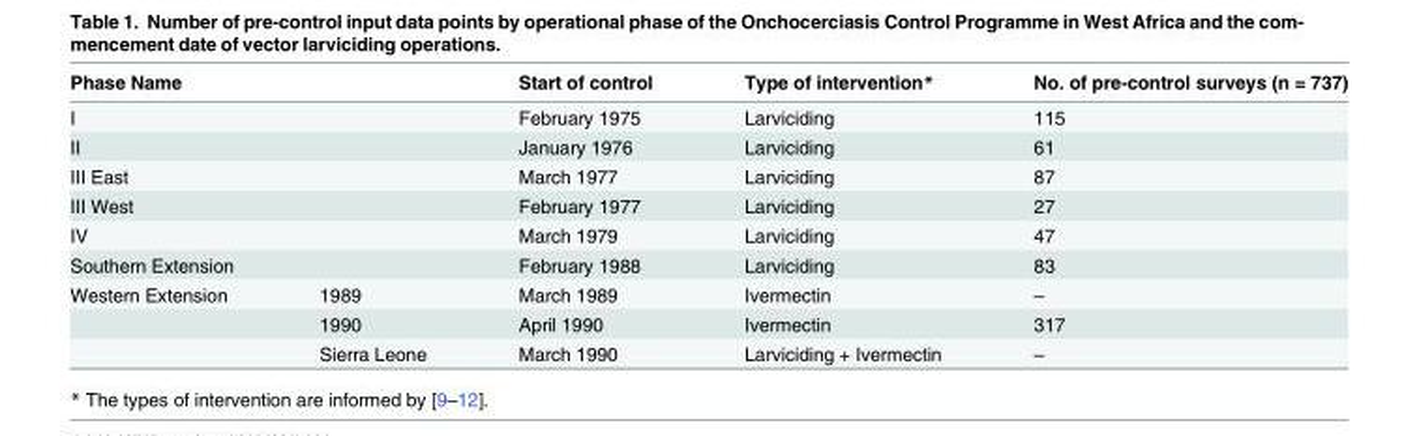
<table><thead><tr><td colspan="2">Phase Name</td><td>Start of control</td><td>Type of intervention*</td><td>No. of pre-control surveys (n = 737)</td></tr></thead><tbody><tr><td colspan="2">I</td><td>February 1975</td><td>Larviciding</td><td>115</td></tr><tr><td colspan="2">II</td><td>January 1976</td><td>Larviciding</td><td>61</td></tr><tr><td colspan="2">III East</td><td>March 1977</td><td>Larviciding</td><td>87</td></tr><tr><td colspan="2">III West</td><td>February 1977</td><td>Larviciding</td><td>27</td></tr><tr><td colspan="2">IV</td><td>March 1979</td><td>Larviciding</td><td>47</td></tr><tr><td colspan="2">Southern Extension</td><td>February 1988</td><td>Larviciding</td><td>83</td></tr><tr><td rowspan="3">Western Extension</td><td>1989</td><td>March 1989</td><td>Ivermectin</td><td>–</td></tr><tr><td>1990</td><td>April 1990</td><td>Ivermectin</td><td>317</td></tr><tr><td>Sierra Leone</td><td>March 1990</td><td>Larviciding + Ivermectin</td><td>–</td></tr></tbody></table>